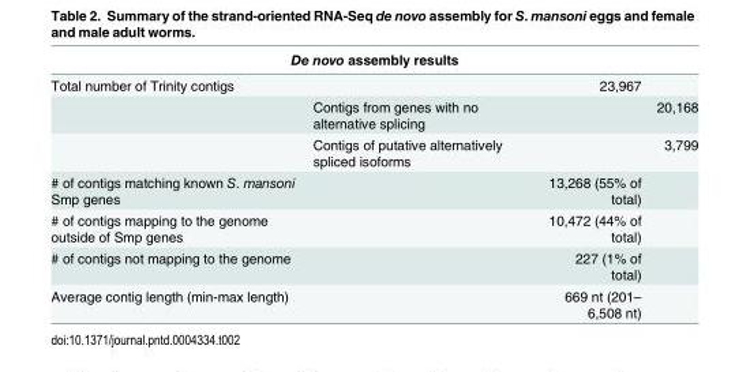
<table><thead><tr><td colspan="4">De novo assembly results</td></tr><tr><td>Total number of Trinity contigs</td><td></td><td>23,967</td><td></td></tr></thead><tbody><tr><td></td><td>Contigs from genes with no alternative splicing</td><td></td><td>20,168</td></tr><tr><td></td><td>Contigs of putative alternatively spliced isoforms</td><td></td><td>3,799</td></tr><tr><td># of contigs matching known S. mansoni Smp genes</td><td></td><td>13,268 (55% of total)</td><td></td></tr><tr><td># of contigs mapping to the genome outside of Smp genes</td><td></td><td>10,472 (44% of total)</td><td></td></tr><tr><td># of contigs not mapping to the genome</td><td></td><td>227 (1% of total)</td><td></td></tr><tr><td>Average contig length (min-max length)</td><td></td><td>669 nt (201– 6,508 nt)</td><td></td></tr></tbody></table>